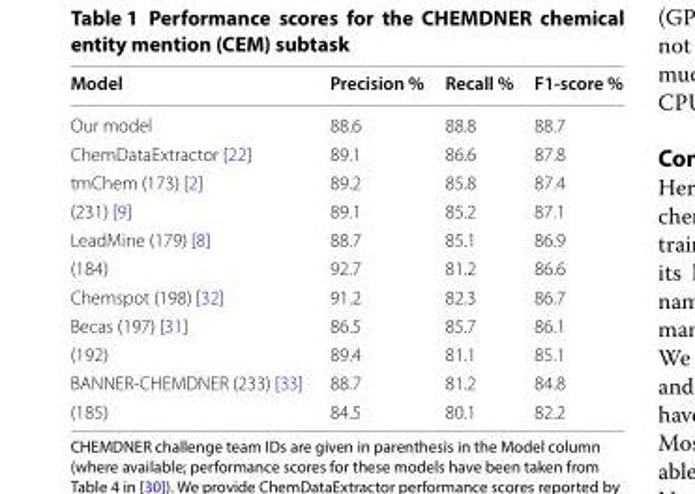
<table><thead><tr><td>Model</td><td>Precision %</td><td>Recall %</td><td>F1-score %</td></tr></thead><tbody><tr><td>Our model</td><td>88.6</td><td>88.8</td><td>88.7</td></tr><tr><td>ChemDataExtractor [22]</td><td>89.1</td><td>86.6</td><td>87.8</td></tr><tr><td>tmChem (173) [2]</td><td>89.2</td><td>85.8</td><td>87.4</td></tr><tr><td>(231) [9]</td><td>89.1</td><td>85.2</td><td>87.1</td></tr><tr><td>LeadMine (179) [8]</td><td>88.7</td><td>85.1</td><td>86.9</td></tr><tr><td>(184)</td><td>92.7</td><td>81.2</td><td>86.6</td></tr><tr><td>Chemspot (198) [32]</td><td>91.2</td><td>82.3</td><td>86.7</td></tr><tr><td>Becas (197) [31]</td><td>86.5</td><td>85.7</td><td>86.1</td></tr><tr><td>(192)</td><td>89.4</td><td>81.1</td><td>85.1</td></tr><tr><td>BANNER-CHEMDNER (233) [33]</td><td>88.7</td><td>81.2</td><td>84.8</td></tr><tr><td>(185)</td><td>84.5</td><td>80.1</td><td>82.2</td></tr></tbody></table>